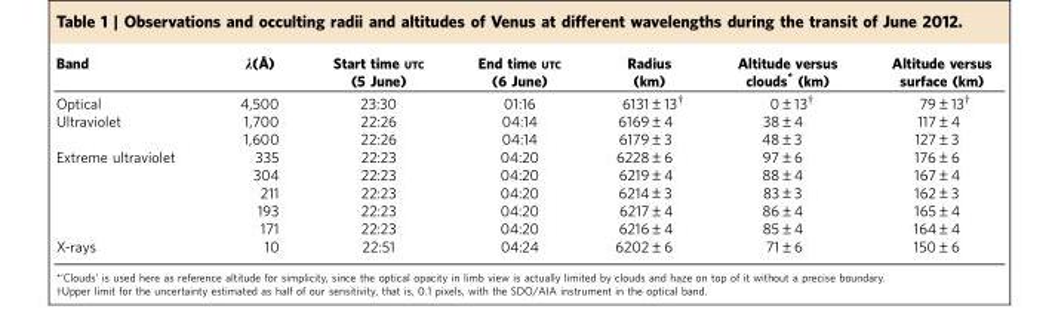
<table><thead><tr><td>Band</td><td>λ(Å)</td><td>Start time UTC (5 June)</td><td>End time UTC (6 June)</td><td>Radius (km)</td><td>Altitude versus clouds* (km)</td><td>Altitude versus surface (km)</td></tr></thead><tbody><tr><td>Optical</td><td>4,500</td><td>23:30</td><td>01:16</td><td>6131±13†</td><td>0±13†</td><td>79±13†</td></tr><tr><td rowspan="2">Ultraviolet</td><td>1,700</td><td>22:26</td><td>04:14</td><td>6169±4</td><td>38±4</td><td>117±4</td></tr><tr><td>1,600</td><td>22:26</td><td>04:14</td><td>6179±3</td><td>48±3</td><td>127±3</td></tr><tr><td rowspan="5">Extreme ultraviolet</td><td>335</td><td>22:23</td><td>04:20</td><td>6228±6</td><td>97±6</td><td>176±6</td></tr><tr><td>304</td><td>22:23</td><td>04:20</td><td>6219±4</td><td>88±4</td><td>167±4</td></tr><tr><td>211</td><td>22:23</td><td>04:20</td><td>6214±3</td><td>83±3</td><td>162±3</td></tr><tr><td>193</td><td>22:23</td><td>04:20</td><td>6217±4</td><td>86±4</td><td>165±4</td></tr><tr><td>171</td><td>22:23</td><td>04:20</td><td>6216±4</td><td>85±4</td><td>164±4</td></tr><tr><td>X-rays</td><td>10</td><td>22:51</td><td>04:24</td><td>6202±6</td><td>71±6</td><td>150±6</td></tr></tbody></table>